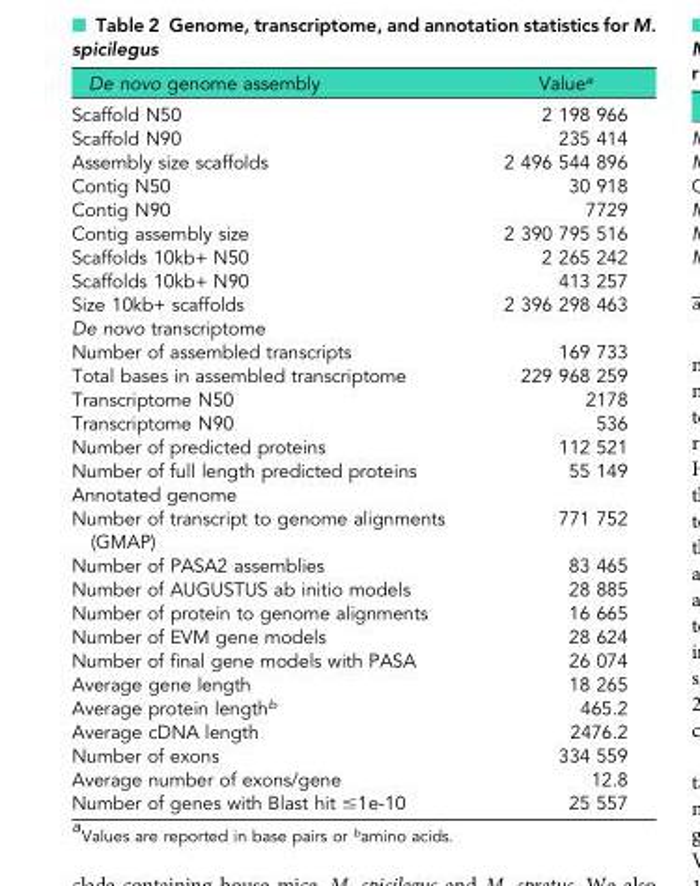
<table><thead><tr><td>De novo genome assembly</td><td>Value<sup>a</sup></td></tr></thead><tbody><tr><td>Scaffold N50</td><td>2 198 966</td></tr><tr><td>Scaffold N90</td><td>235 414</td></tr><tr><td>Assembly size scaffolds</td><td>2 496 544 896</td></tr><tr><td>Contig N50</td><td>30 918</td></tr><tr><td>Contig N90</td><td>7729</td></tr><tr><td>Contig assembly size</td><td>2 390 795 516</td></tr><tr><td>Scaffolds 10kb+ N50</td><td>2 265 242</td></tr><tr><td>Scaffolds 10kb+ N90</td><td>413 257</td></tr><tr><td>Size 10kb+ scaffolds</td><td>2 396 298 463</td></tr><tr><td colspan="2">De novo transcriptome</td></tr><tr><td>Number of assembled transcripts</td><td>169 733</td></tr><tr><td>Total bases in assembled transcriptome</td><td>229 968 259</td></tr><tr><td>Transcriptome N50</td><td>2178</td></tr><tr><td>Transcriptome N90</td><td>536</td></tr><tr><td>Number of predicted proteins</td><td>112 521</td></tr><tr><td>Number of full length predicted proteins</td><td>55 149</td></tr><tr><td colspan="2">Annotated genome</td></tr><tr><td>Number of transcript to genome alignments (GMAP)</td><td>771 752</td></tr><tr><td>Number of PASA2 assemblies</td><td>83 465</td></tr><tr><td>Number of AUGUSTUS ab initio models</td><td>28 885</td></tr><tr><td>Number of protein to genome alignments</td><td>16 665</td></tr><tr><td>Number of EVM gene models</td><td>28 624</td></tr><tr><td>Number of final gene models with PASA</td><td>26 074</td></tr><tr><td>Average gene length</td><td>18 265</td></tr><tr><td>Average protein length<sup>b</sup></td><td>465.2</td></tr><tr><td>Average cDNA length</td><td>2476.2</td></tr><tr><td>Number of exons</td><td>334 559</td></tr><tr><td>Average number of exons/gene</td><td>12.8</td></tr><tr><td>Number of genes with Blast hit ≤1e-10</td><td>25 557</td></tr></tbody></table>